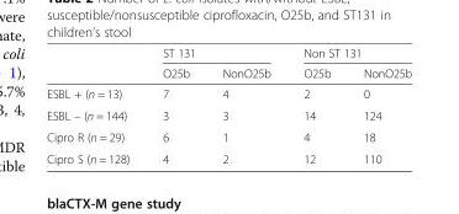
<table><thead><tr><td rowspan="2"></td><td colspan="2">ST 131</td><td colspan="2">Non ST 131</td></tr><tr><td>O25b</td><td>NonO25b</td><td>O25b</td><td>NonO25b</td></tr></thead><tbody><tr><td>ESBL + (n = 13)</td><td>7</td><td>4</td><td>2</td><td>0</td></tr><tr><td>ESBL – (n = 144)</td><td>3</td><td>3</td><td>14</td><td>124</td></tr><tr><td>Cipro R (n = 29)</td><td>6</td><td>1</td><td>4</td><td>18</td></tr><tr><td>Cipro S (n = 128)</td><td>4</td><td>2</td><td>12</td><td>110</td></tr></tbody></table>